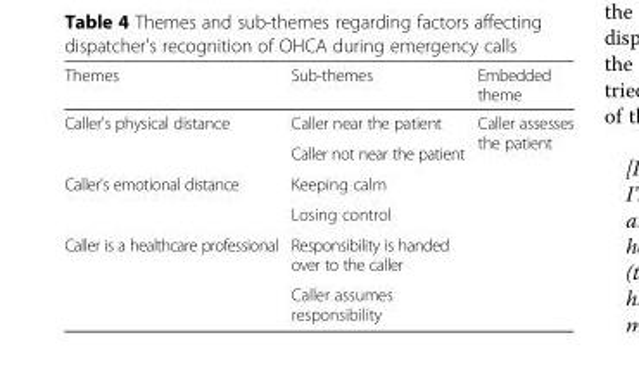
<table><thead><tr><td>Themes</td><td>Sub-themes</td><td>Embedded theme</td></tr></thead><tbody><tr><td rowspan="2">Caller&#x27;s physical distance</td><td>Caller near the patient</td><td rowspan="6">Caller assesses the patient</td></tr><tr><td>Caller not near the patient</td></tr><tr><td rowspan="2">Caller&#x27;s emotional distance</td><td>Keeping calm</td></tr><tr><td>Losing control</td></tr><tr><td rowspan="2">Caller is a healthcare professional</td><td>Responsibility is handed over to the caller</td></tr><tr><td>Caller assumes responsibility</td></tr></tbody></table>